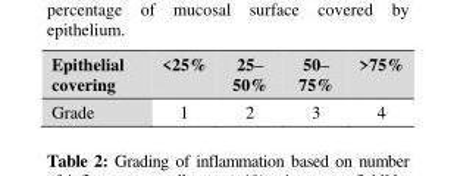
<table><thead><tr><td>Epithelial covering</td><td>&lt;25%</td><td>25– 50%</td><td>50– 75%</td><td>&gt;75%</td></tr></thead><tbody><tr><td>Grade</td><td>1</td><td>2</td><td>3</td><td>4</td></tr></tbody></table>